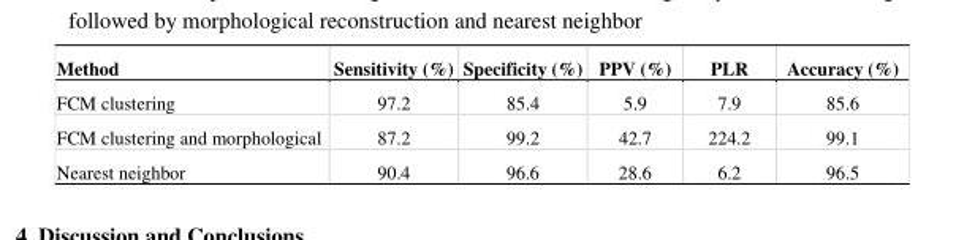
<table><thead><tr><td>Method</td><td>Sensitivity (%)</td><td>Specificity (%)</td><td>PPV (%)</td><td>PLR</td><td>Accuracy (%)</td></tr></thead><tbody><tr><td>FCM clustering</td><td>97.2</td><td>85.4</td><td>5.9</td><td>7.9</td><td>85.6</td></tr><tr><td>FCM clustering and morphological</td><td>87.2</td><td>99.2</td><td>42.7</td><td>224.2</td><td>99.1</td></tr><tr><td>Nearest neighbor</td><td>90.4</td><td>96.6</td><td>28.6</td><td>6.2</td><td>96.5</td></tr></tbody></table>